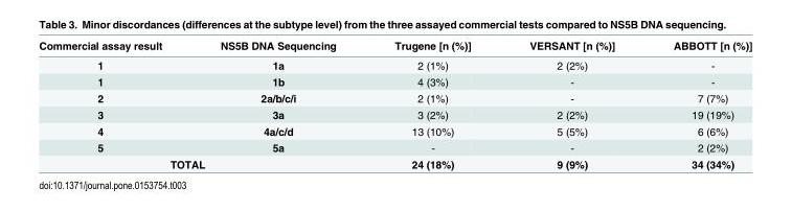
<table><thead><tr><td>Commercial assay result</td><td>NS5B DNA Sequencing</td><td>Trugene [n (%)]</td><td>VERSANT [n (%)]</td><td>ABBOTT [n (%)]</td></tr></thead><tbody><tr><td>1</td><td>1a</td><td>2 (1%)</td><td>2 (2%)</td><td>-</td></tr><tr><td>1</td><td>1b</td><td>4 (3%)</td><td>-</td><td>-</td></tr><tr><td>2</td><td>2a/b/c/i</td><td>2 (1%)</td><td>-</td><td>7 (7%)</td></tr><tr><td>3</td><td>3a</td><td>3 (2%)</td><td>2 (2%)</td><td>19 (19%)</td></tr><tr><td>4</td><td>4a/c/d</td><td>13 (10%)</td><td>5 (5%)</td><td>6 (6%)</td></tr><tr><td>5</td><td>5a</td><td>-</td><td>-</td><td>2 (2%)</td></tr><tr><td colspan="2">TOTAL</td><td>24 (18%)</td><td>9 (9%)</td><td>34 (34%)</td></tr></tbody></table>